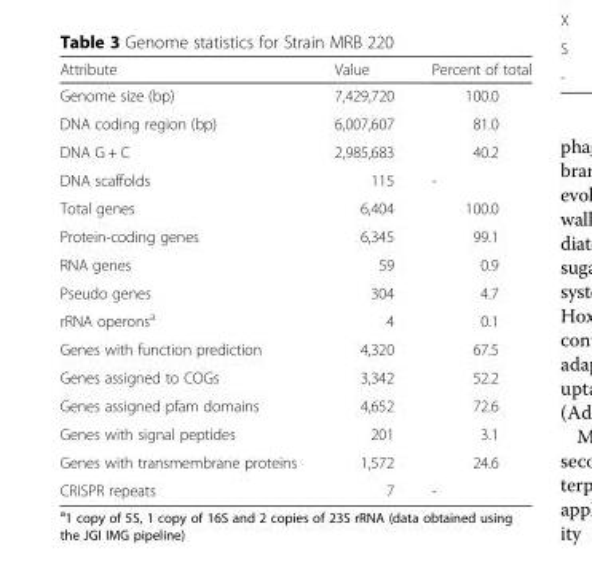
<table><thead><tr><td>Attribute</td><td>Value</td><td>Percent of total</td></tr></thead><tbody><tr><td>Genome size (bp)</td><td>7,429,720</td><td>100.0</td></tr><tr><td>DNA coding region (bp)</td><td>6,007,607</td><td>81.0</td></tr><tr><td>DNA G + C</td><td>2,985,683</td><td>40.2</td></tr><tr><td>DNA scaffolds</td><td>115</td><td>-</td></tr><tr><td>Total genes</td><td>6,404</td><td>100.0</td></tr><tr><td>Protein-coding genes</td><td>6,345</td><td>99.1</td></tr><tr><td>RNA genes</td><td>59</td><td>0.9</td></tr><tr><td>Pseudo genes</td><td>304</td><td>4.7</td></tr><tr><td>rRNA operons<sup>a</sup></td><td>4</td><td>0.1</td></tr><tr><td>Genes with function prediction</td><td>4,320</td><td>67.5</td></tr><tr><td>Genes assigned to COGs</td><td>3,342</td><td>52.2</td></tr><tr><td>Genes assigned pfam domains</td><td>4,652</td><td>72.6</td></tr><tr><td>Genes with signal peptides</td><td>201</td><td>3.1</td></tr><tr><td>Genes with transmembrane proteins</td><td>1,572</td><td>24.6</td></tr><tr><td>CRISPR repeats</td><td>7</td><td>-</td></tr></tbody></table>